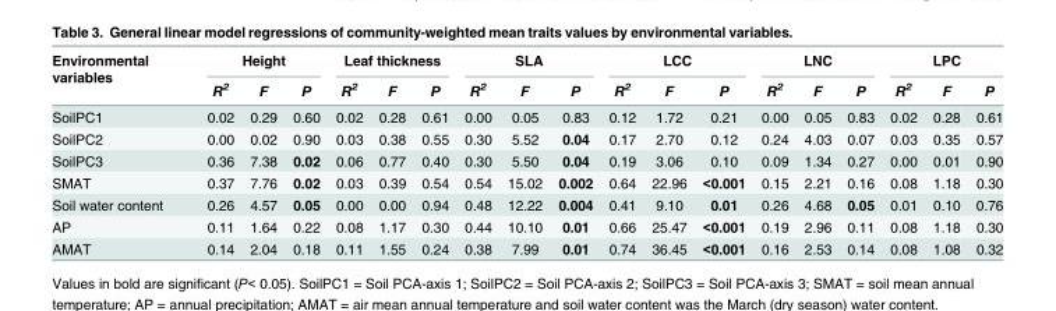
<table><thead><tr><td rowspan="2">Environmental variables</td><td colspan="3">Height</td><td colspan="3">Leaf thickness</td><td colspan="3">SLA</td><td colspan="3">LCC</td><td colspan="3">LNC</td><td colspan="3">LPC</td></tr><tr><td>R<sup>2</sup></td><td>F</td><td>P</td><td>R<sup>2</sup></td><td>F</td><td>P</td><td>R<sup>2</sup></td><td>F</td><td>P</td><td>R<sup>2</sup></td><td>F</td><td>P</td><td>R<sup>2</sup></td><td>F</td><td>P</td><td>R<sup>2</sup></td><td>F</td><td>P</td></tr></thead><tbody><tr><td>SoilPC1</td><td>0.02</td><td>0.29</td><td>0.60</td><td>0.02</td><td>0.28</td><td>0.61</td><td>0.00</td><td>0.05</td><td>0.83</td><td>0.12</td><td>1.72</td><td>0.21</td><td>0.00</td><td>0.05</td><td>0.83</td><td>0.02</td><td>0.28</td><td>0.61</td></tr><tr><td>SoilPC2</td><td>0.00</td><td>0.02</td><td>0.90</td><td>0.03</td><td>0.38</td><td>0.55</td><td>0.30</td><td>5.52</td><td>0.04</td><td>0.17</td><td>2.70</td><td>0.12</td><td>0.24</td><td>4.03</td><td>0.07</td><td>0.03</td><td>0.35</td><td>0.57</td></tr><tr><td>SoilPC3</td><td>0.36</td><td>7.38</td><td>0.02</td><td>0.06</td><td>0.77</td><td>0.40</td><td>0.30</td><td>5.50</td><td>0.04</td><td>0.19</td><td>3.06</td><td>0.10</td><td>0.09</td><td>1.34</td><td>0.27</td><td>0.00</td><td>0.01</td><td>0.90</td></tr><tr><td>SMAT</td><td>0.37</td><td>7.76</td><td>0.02</td><td>0.03</td><td>0.39</td><td>0.54</td><td>0.54</td><td>15.02</td><td>0.002</td><td>0.64</td><td>22.96</td><td>&lt;0.001</td><td>0.15</td><td>2.21</td><td>0.16</td><td>0.08</td><td>1.18</td><td>0.30</td></tr><tr><td>Soil water content</td><td>0.26</td><td>4.57</td><td>0.05</td><td>0.00</td><td>0.00</td><td>0.94</td><td>0.48</td><td>12.22</td><td>0.004</td><td>0.41</td><td>9.10</td><td>0.01</td><td>0.26</td><td>4.68</td><td>0.05</td><td>0.01</td><td>0.10</td><td>0.76</td></tr><tr><td>AP</td><td>0.11</td><td>1.64</td><td>0.22</td><td>0.08</td><td>1.17</td><td>0.30</td><td>0.44</td><td>10.10</td><td>0.01</td><td>0.66</td><td>25.47</td><td>&lt;0.001</td><td>0.19</td><td>2.96</td><td>0.11</td><td>0.08</td><td>1.18</td><td>0.30</td></tr><tr><td>AMAT</td><td>0.14</td><td>2.04</td><td>0.18</td><td>0.11</td><td>1.55</td><td>0.24</td><td>0.38</td><td>7.99</td><td>0.01</td><td>0.74</td><td>36.45</td><td>&lt;0.001</td><td>0.16</td><td>2.53</td><td>0.14</td><td>0.08</td><td>1.08</td><td>0.32</td></tr></tbody></table>